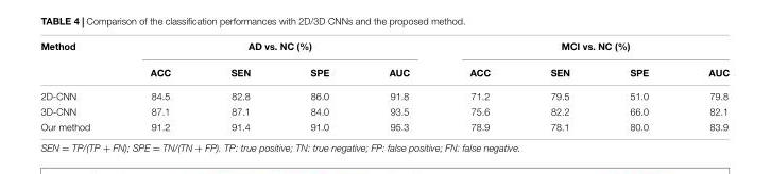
<table><thead><tr><td rowspan="2">Method</td><td colspan="4">AD vs. NC (%)</td><td colspan="4">MCI vs. NC (%)</td></tr><tr><td>ACC</td><td>SEN</td><td>SPE</td><td>AUC</td><td>ACC</td><td>SEN</td><td>SPE</td><td>AUC</td></tr></thead><tbody><tr><td>2D-CNN</td><td>84.5</td><td>82.8</td><td>86.0</td><td>91.8</td><td>71.2</td><td>79.5</td><td>51.0</td><td>79.8</td></tr><tr><td>3D-CNN</td><td>87.1</td><td>87.1</td><td>84.0</td><td>93.5</td><td>75.6</td><td>82.2</td><td>66.0</td><td>82.1</td></tr><tr><td>Our method</td><td>91.2</td><td>91.4</td><td>91.0</td><td>95.3</td><td>78.9</td><td>78.1</td><td>80.0</td><td>83.9</td></tr></tbody></table>